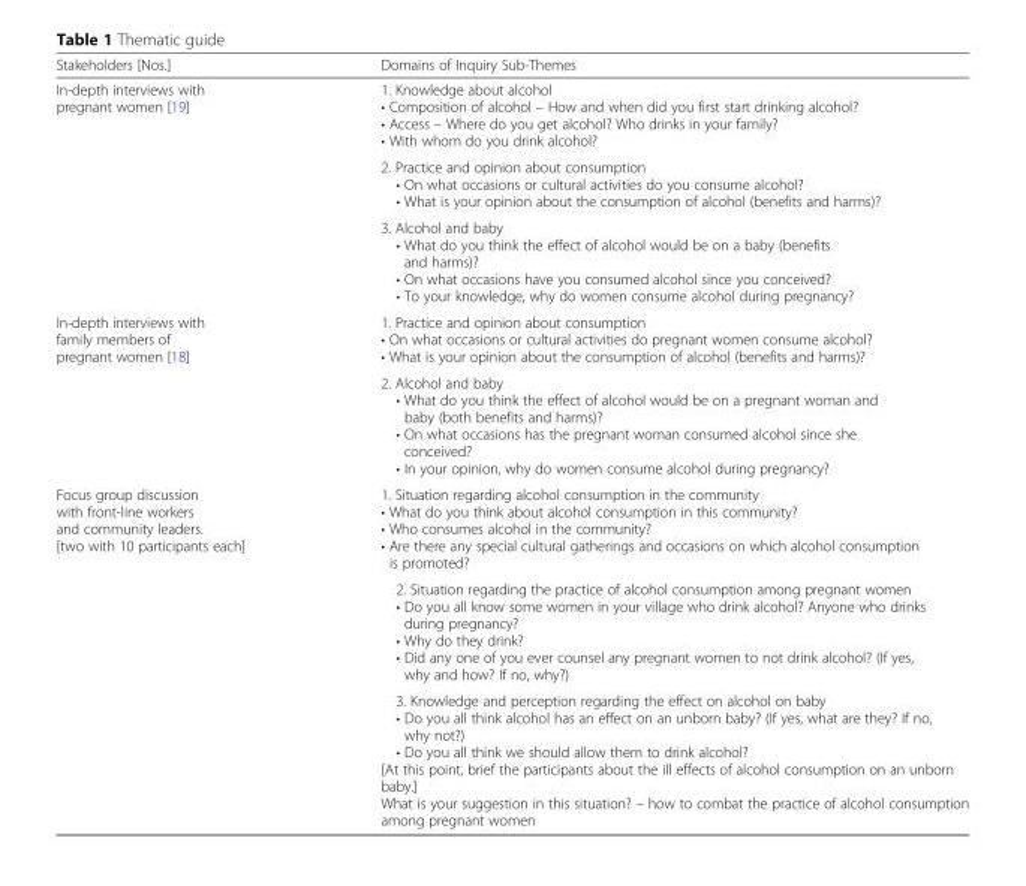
<table><thead><tr><td>Stakeholders [Nos.]</td><td>Domains of Inquiry Sub-Themes</td></tr></thead><tbody><tr><td rowspan="3">In-depth interviews with pregnant women [19]</td><td>1. Knowledge about alcohol • Composition of alcohol – How and when did you first start drinking alcohol? • Access – Where do you get alcohol? Who drinks in your family? • With whom do you drink alcohol?</td></tr><tr><td>2. Practice and opinion about consumption • On what occasions or cultural activities do you consume alcohol? • What is your opinion about the consumption of alcohol (benefits and harms)?</td></tr><tr><td>3. Alcohol and baby • What do you think the effect of alcohol would be on a baby (benefits and harms)? • On what occasions have you consumed alcohol since you conceived? • To your knowledge, why do women consume alcohol during pregnancy?</td></tr><tr><td rowspan="2">In-depth interviews with family members of pregnant women [18]</td><td>1. Practice and opinion about consumption • On what occasions or cultural activities do pregnant women consume alcohol? • What is your opinion about the consumption of alcohol (benefits and harms)?</td></tr><tr><td>2. Alcohol and baby • What do you think the effect of alcohol would be on a pregnant woman and baby (both benefits and harms)? • On what occasions has the pregnant woman consumed alcohol since she conceived? • In your opinion, why do women consume alcohol during pregnancy?</td></tr><tr><td rowspan="3">Focus group discussion with front-line workers and community leaders. [two with 10 participants each]</td><td>1. Situation regarding alcohol consumption in the community • What do you think about alcohol consumption in this community? • Who consumes alcohol in the community? • Are there any special cultural gatherings and occasions on which alcohol consumption is promoted?</td></tr><tr><td>2. Situation regarding the practice of alcohol consumption among pregnant women • Do you all know some women in your village who drink alcohol? Anyone who drinks during pregnancy? • Why do they drink? • Did any one of you ever counsel any pregnant women to not drink alcohol? (If yes, why and how? If no, why?)</td></tr><tr><td>3. Knowledge and perception regarding the effect on alcohol on baby • Do you all think alcohol has an effect on an unborn baby? (If yes, what are they? If no, why not?) • Do you all think we should allow them to drink alcohol? [At this point, brief the participants about the ill effects of alcohol consumption on an unborn baby.] What is your suggestion in this situation? – how to combat the practice of alcohol consumption among pregnant women</td></tr></tbody></table>